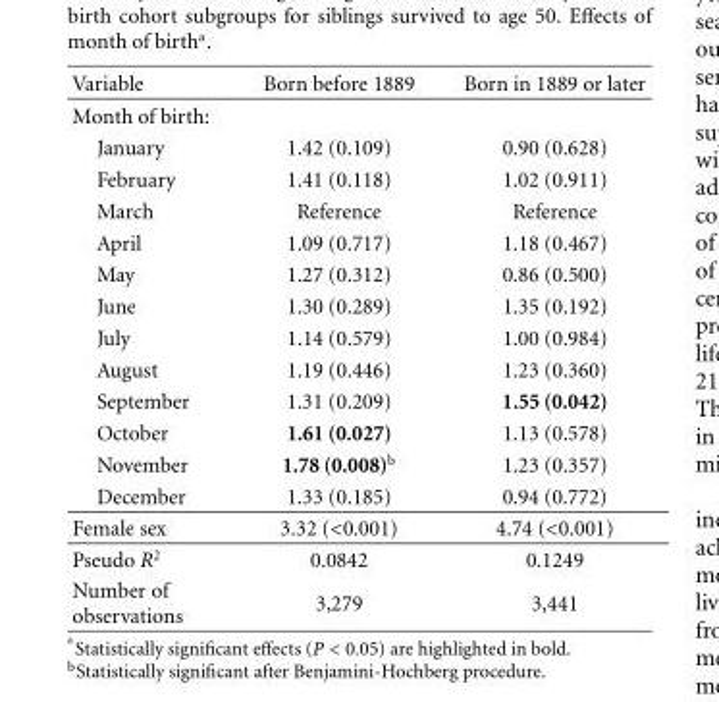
<table><thead><tr><td>Variable</td><td>Born before 1889</td><td>Born in 1889 or later</td></tr></thead><tbody><tr><td colspan="3">Month of birth:</td></tr><tr><td>January</td><td>1.42 (0.109)</td><td>0.90 (0.628)</td></tr><tr><td>February</td><td>1.41 (0.118)</td><td>1.02 (0.911)</td></tr><tr><td>March</td><td>Reference</td><td>Reference</td></tr><tr><td>April</td><td>1.09 (0.717)</td><td>1.18 (0.467)</td></tr><tr><td>May</td><td>1.27 (0.312)</td><td>0.86 (0.500)</td></tr><tr><td>June</td><td>1.30 (0.289)</td><td>1.35 (0.192)</td></tr><tr><td>July</td><td>1.14 (0.579)</td><td>1.00 (0.984)</td></tr><tr><td>August</td><td>1.19 (0.446)</td><td>1.23 (0.360)</td></tr><tr><td>September</td><td>1.31 (0.209)</td><td>1.55 (0.042)</td></tr><tr><td>October</td><td>1.61 (0.027)</td><td>1.13 (0.578)</td></tr><tr><td>November</td><td>1.78 (0.008)<sup>b</sup></td><td>1.23 (0.357)</td></tr><tr><td>December</td><td>1.33 (0.185)</td><td>0.94 (0.772)</td></tr><tr><td>Female sex</td><td>3.32 (&lt;0.001)</td><td>4.74 (&lt;0.001)</td></tr><tr><td>Pseudo R<sup>2</sup></td><td>0.0842</td><td>0.1249</td></tr><tr><td>Number of observations</td><td>3,279</td><td>3,441</td></tr></tbody></table>